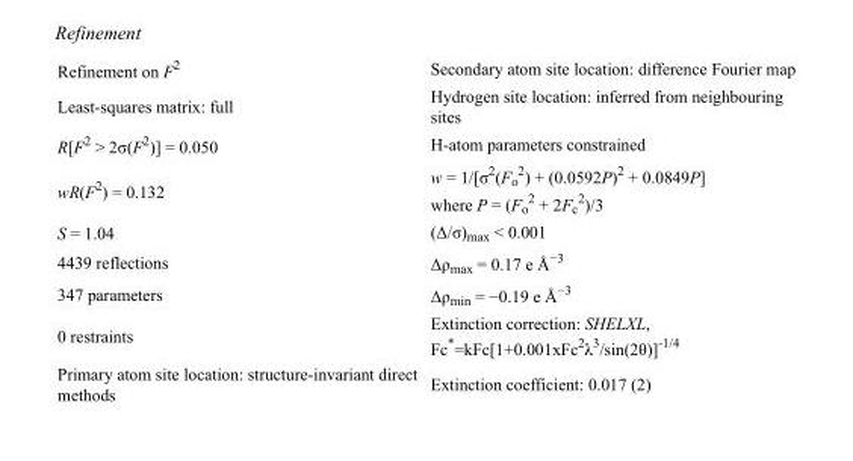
<table><tbody><tr><td>Refinement on F<sup>2</sup></td><td>Secondary atom site location: difference Fourier map</td></tr><tr><td>Least-squares matrix: full</td><td>Hydrogen site location: inferred from neighbouring sites</td></tr><tr><td>R[F<sup>2</sup> &gt; 2σ(F<sup>2</sup>)] = 0.050</td><td>H-atom parameters constrained</td></tr><tr><td>wR(F<sup>2</sup>) = 0.132</td><td>w = 1/[σ<sup>2</sup>(F<sub>o</sub> <sup>2</sup>) + (0.0592P)<sup>2</sup> + 0.0849P] where P = (F<sub>o</sub> <sup>2</sup> + 2F<sub>c</sub> <sup>2</sup>)/3</td></tr><tr><td>S = 1.04</td><td>(Δ/σ)<sub>max</sub> &lt; 0.001</td></tr><tr><td>4439 reflections</td><td>Δρ<sub>max</sub> = 0.17 e Å<sup>−3</sup></td></tr><tr><td>347 parameters</td><td>Δρ<sub>min</sub> = −0.19 e Å<sup>−3</sup></td></tr><tr><td>0 restraints</td><td>Extinction correction: SHELXL, Fc*=kFc[1+0.001xFc<sup>2</sup>λ<sup>3</sup>/sin(2θ)]<sup>-1/4</sup></td></tr><tr><td>Primary atom site location: structure-invariant direct methods</td><td>Extinction coefficient: 0.017 (2)</td></tr></tbody></table>